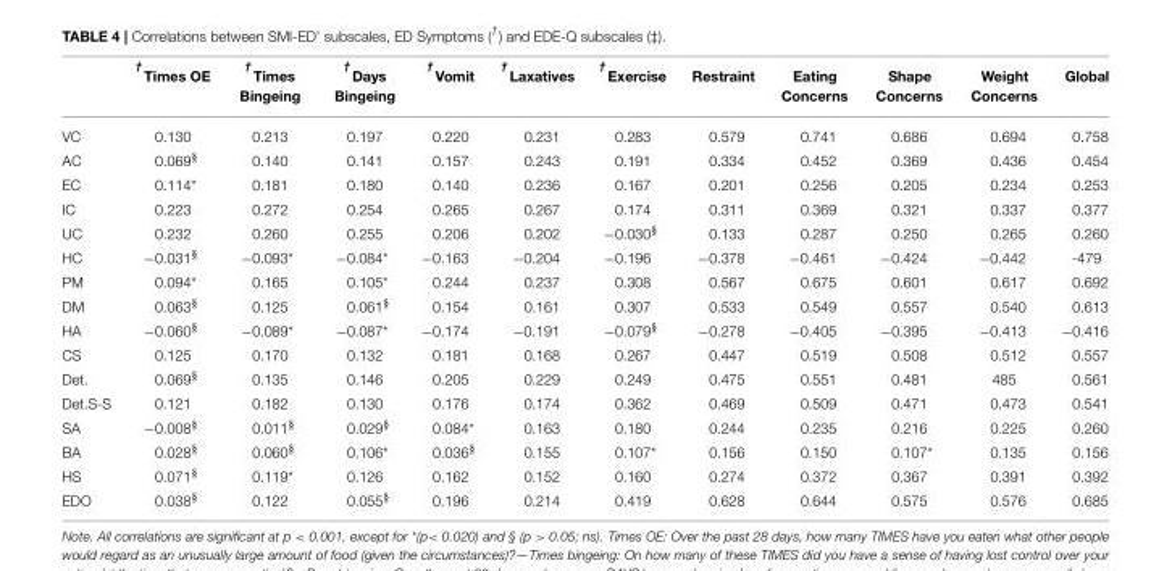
<table><thead><tr><td></td><td><sup>†</sup> Times OE</td><td><sup>†</sup> Times Bingeing</td><td><sup>†</sup> Days Bingeing</td><td><sup>†</sup> Vomit</td><td><sup>†</sup> Laxatives</td><td><sup>†</sup> Exercise</td><td>Restraint</td><td>Eating Concerns</td><td>Shape Concerns</td><td>Weight Concerns</td><td>Global</td></tr></thead><tbody><tr><td>VC</td><td>0.130</td><td>0.213</td><td>0.197</td><td>0.220</td><td>0.231</td><td>0.283</td><td>0.579</td><td>0.741</td><td>0.686</td><td>0.694</td><td>0.758</td></tr><tr><td>AC</td><td>0.069<sup>§</sup></td><td>0.140</td><td>0.141</td><td>0.157</td><td>0.243</td><td>0.191</td><td>0.334</td><td>0.452</td><td>0.369</td><td>0.436</td><td>0.454</td></tr><tr><td>EC</td><td>0.114*</td><td>0.181</td><td>0.180</td><td>0.140</td><td>0.236</td><td>0.167</td><td>0.201</td><td>0.256</td><td>0.205</td><td>0.234</td><td>0.253</td></tr><tr><td>IC</td><td>0.223</td><td>0.272</td><td>0.254</td><td>0.265</td><td>0.267</td><td>0.174</td><td>0.311</td><td>0.369</td><td>0.321</td><td>0.337</td><td>0.377</td></tr><tr><td>UC</td><td>0.232</td><td>0.260</td><td>0.255</td><td>0.206</td><td>0.202</td><td>−0.030<sup>§</sup></td><td>0.133</td><td>0.287</td><td>0.250</td><td>0.265</td><td>0.260</td></tr><tr><td>HC</td><td>−0.031<sup>§</sup></td><td>−0.093*</td><td>−0.084*</td><td>−0.163</td><td>−0.204</td><td>−0.196</td><td>−0.378</td><td>−0.461</td><td>−0.424</td><td>−0.442</td><td>-479</td></tr><tr><td>PM</td><td>0.094*</td><td>0.165</td><td>0.105*</td><td>0.244</td><td>0.237</td><td>0.308</td><td>0.567</td><td>0.675</td><td>0.601</td><td>0.617</td><td>0.692</td></tr><tr><td>DM</td><td>0.063<sup>§</sup></td><td>0.125</td><td>0.061<sup>§</sup></td><td>0.154</td><td>0.161</td><td>0.307</td><td>0.533</td><td>0.549</td><td>0.557</td><td>0.540</td><td>0.613</td></tr><tr><td>HA</td><td>−0.060<sup>§</sup></td><td>−0.089*</td><td>−0.087*</td><td>−0.174</td><td>−0.191</td><td>−0.079<sup>§</sup></td><td>−0.278</td><td>−0.405</td><td>−0.395</td><td>−0.413</td><td>−0.416</td></tr><tr><td>CS</td><td>0.125</td><td>0.170</td><td>0.132</td><td>0.181</td><td>0.168</td><td>0.267</td><td>0.447</td><td>0.519</td><td>0.508</td><td>0.512</td><td>0.557</td></tr><tr><td>Det.</td><td>0.069<sup>§</sup></td><td>0.135</td><td>0.146</td><td>0.205</td><td>0.229</td><td>0.249</td><td>0.475</td><td>0.551</td><td>0.481</td><td>485</td><td>0.561</td></tr><tr><td>Det.S-S</td><td>0.121</td><td>0.182</td><td>0.130</td><td>0.176</td><td>0.174</td><td>0.362</td><td>0.469</td><td>0.509</td><td>0.471</td><td>0.473</td><td>0.541</td></tr><tr><td>SA</td><td>−0.008<sup>§</sup></td><td>0.011<sup>§</sup></td><td>0.029<sup>§</sup></td><td>0.084*</td><td>0.163</td><td>0.180</td><td>0.244</td><td>0.235</td><td>0.216</td><td>0.225</td><td>0.260</td></tr><tr><td>BA</td><td>0.028<sup>§</sup></td><td>0.060<sup>§</sup></td><td>0.106*</td><td>0.036<sup>§</sup></td><td>0.155</td><td>0.107*</td><td>0.156</td><td>0.150</td><td>0.107*</td><td>0.135</td><td>0.156</td></tr><tr><td>HS</td><td>0.071<sup>§</sup></td><td>0.119*</td><td>0.126</td><td>0.162</td><td>0.152</td><td>0.160</td><td>0.274</td><td>0.372</td><td>0.367</td><td>0.391</td><td>0.392</td></tr><tr><td>EDO</td><td>0.038<sup>§</sup></td><td>0.122</td><td>0.055<sup>§</sup></td><td>0.196</td><td>0.214</td><td>0.419</td><td>0.628</td><td>0.644</td><td>0.575</td><td>0.576</td><td>0.685</td></tr></tbody></table>